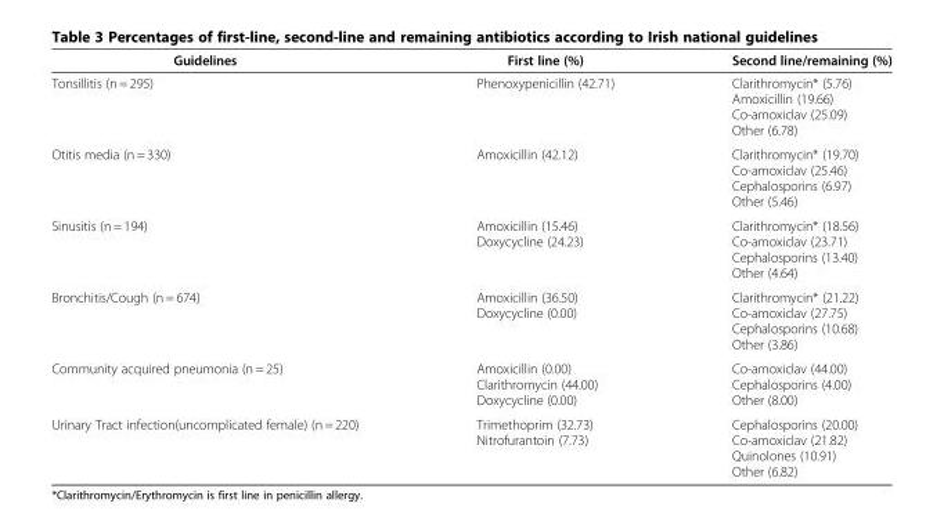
<table><thead><tr><td>Guidelines</td><td>First line (%)</td><td>Second line/remaining (%)</td></tr></thead><tbody><tr><td>Tonsillitis (n = 295)</td><td>Phenoxypenicillin (42.71)</td><td>Clarithromycin* (5.76) Amoxicillin (19.66) Co-amoxiclav (25.09) Other (6.78)</td></tr><tr><td>Otitis media (n = 330)</td><td>Amoxicillin (42.12)</td><td>Clarithromycin* (19.70) Co-amoxiclav (25.46) Cephalosporins (6.97) Other (5.46)</td></tr><tr><td>Sinusitis (n = 194)</td><td>Amoxicillin (15.46) Doxycycline (24.23)</td><td>Clarithromycin* (18.56) Co-amoxiclav (23.71) Cephalosporins (13.40) Other (4.64)</td></tr><tr><td>Bronchitis/Cough (n = 674)</td><td>Amoxicillin (36.50) Doxycycline (0.00)</td><td>Clarithromycin* (21.22) Co-amoxiclav (27.75) Cephalosporins (10.68) Other (3.86)</td></tr><tr><td>Community acquired pneumonia (n = 25)</td><td>Amoxicillin (0.00) Clarithromycin (44.00) Doxycycline (0.00)</td><td>Co-amoxiclav (44.00) Cephalosporins (4.00) Other (8.00)</td></tr><tr><td>Urinary Tract infection(uncomplicated female) (n = 220)</td><td>Trimethoprim (32.73) Nitrofurantoin (7.73)</td><td>Cephalosporins (20.00) Co-amoxiclav (21.82) Quinolones (10.91) Other (6.82)</td></tr></tbody></table>